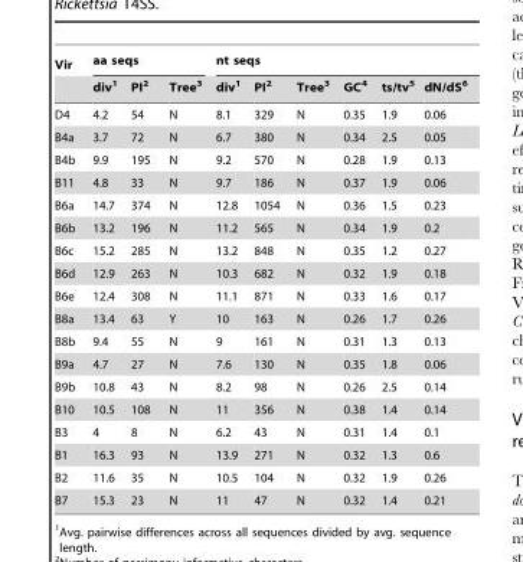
<table><thead><tr><td rowspan="2">Vir</td><td colspan="3">aa seqs</td><td colspan="6">nt seqs</td></tr><tr><td>div<sup>1</sup></td><td>PI<sup>2</sup></td><td>Tree<sup>3</sup></td><td>div<sup>1</sup></td><td>PI<sup>2</sup></td><td>Tree<sup>3</sup></td><td>GC<sup>4</sup></td><td>ts/tv<sup>5</sup></td><td>dN/dS<sup>6</sup></td></tr></thead><tbody><tr><td>D4</td><td>4.2</td><td>54</td><td>N</td><td>8.1</td><td>329</td><td>N</td><td>0.35</td><td>1.9</td><td>0.06</td></tr><tr><td>B4a</td><td>3.7</td><td>72</td><td>N</td><td>6.7</td><td>380</td><td>N</td><td>0.34</td><td>2.5</td><td>0.05</td></tr><tr><td>B4b</td><td>9.9</td><td>195</td><td>N</td><td>9.2</td><td>570</td><td>N</td><td>0.28</td><td>1.9</td><td>0.13</td></tr><tr><td>B11</td><td>4.8</td><td>33</td><td>N</td><td>9.7</td><td>186</td><td>N</td><td>0.37</td><td>1.9</td><td>0.06</td></tr><tr><td>B6a</td><td>14.7</td><td>374</td><td>N</td><td>12.8</td><td>1054</td><td>N</td><td>0.36</td><td>1.5</td><td>0.23</td></tr><tr><td>B6b</td><td>13.2</td><td>196</td><td>N</td><td>11.2</td><td>565</td><td>N</td><td>0.34</td><td>1.9</td><td>0.2</td></tr><tr><td>B6c</td><td>15.2</td><td>285</td><td>N</td><td>13.2</td><td>848</td><td>N</td><td>0.35</td><td>1.2</td><td>0.27</td></tr><tr><td>B6d</td><td>12.9</td><td>263</td><td>N</td><td>10.3</td><td>682</td><td>N</td><td>0.32</td><td>1.9</td><td>0.18</td></tr><tr><td>B6e</td><td>12.4</td><td>308</td><td>N</td><td>11.1</td><td>871</td><td>N</td><td>0.33</td><td>1.6</td><td>0.17</td></tr><tr><td>B8a</td><td>13.4</td><td>63</td><td>Y</td><td>10</td><td>163</td><td>N</td><td>0.26</td><td>1.7</td><td>0.26</td></tr><tr><td>B8b</td><td>9.4</td><td>55</td><td>N</td><td>9</td><td>161</td><td>N</td><td>0.31</td><td>1.3</td><td>0.13</td></tr><tr><td>B9a</td><td>4.7</td><td>27</td><td>N</td><td>7.6</td><td>130</td><td>N</td><td>0.35</td><td>1.8</td><td>0.06</td></tr><tr><td>B9b</td><td>10.8</td><td>43</td><td>N</td><td>8.2</td><td>98</td><td>N</td><td>0.26</td><td>2.5</td><td>0.14</td></tr><tr><td>B10</td><td>10.5</td><td>108</td><td>N</td><td>11</td><td>356</td><td>N</td><td>0.38</td><td>1.4</td><td>0.14</td></tr><tr><td>B3</td><td>4</td><td>8</td><td>N</td><td>6.2</td><td>43</td><td>N</td><td>0.31</td><td>1.4</td><td>0.1</td></tr><tr><td>B1</td><td>16.3</td><td>93</td><td>N</td><td>13.9</td><td>271</td><td>N</td><td>0.32</td><td>1.3</td><td>0.6</td></tr><tr><td>B2</td><td>11.6</td><td>35</td><td>N</td><td>10.5</td><td>104</td><td>N</td><td>0.32</td><td>1.9</td><td>0.26</td></tr><tr><td>B7</td><td>15.3</td><td>23</td><td>N</td><td>11</td><td>47</td><td>N</td><td>0.32</td><td>1.4</td><td>0.21</td></tr></tbody></table>